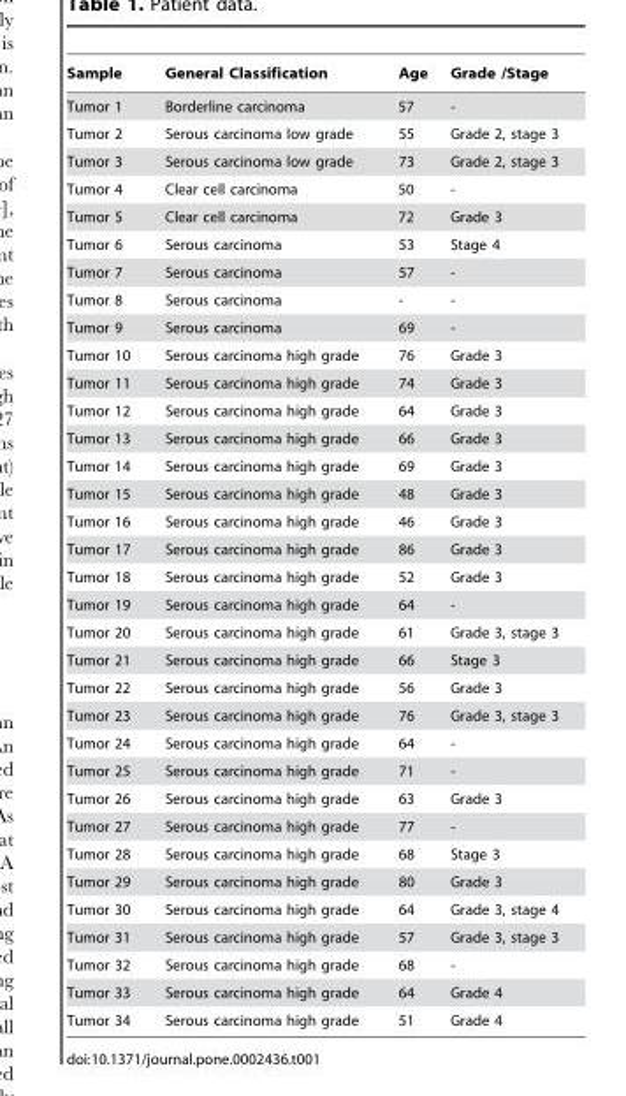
<table><thead><tr><td>Sample</td><td>General Classification</td><td>Age</td><td>Grade /Stage</td></tr></thead><tbody><tr><td>Tumor 1</td><td>Borderline carcinoma</td><td>57</td><td>-</td></tr><tr><td>Tumor 2</td><td>Serous carcinoma low grade</td><td>55</td><td>Grade 2, stage 3</td></tr><tr><td>Tumor 3</td><td>Serous carcinoma low grade</td><td>73</td><td>Grade 2, stage 3</td></tr><tr><td>Tumor 4</td><td>Clear cell carcinoma</td><td>50</td><td>-</td></tr><tr><td>Tumor 5</td><td>Clear cell carcinoma</td><td>72</td><td>Grade 3</td></tr><tr><td>Tumor 6</td><td>Serous carcinoma</td><td>53</td><td>Stage 4</td></tr><tr><td>Tumor 7</td><td>Serous carcinoma</td><td>57</td><td>-</td></tr><tr><td>Tumor 8</td><td>Serous carcinoma</td><td>-</td><td>-</td></tr><tr><td>Tumor 9</td><td>Serous carcinoma</td><td>69</td><td>-</td></tr><tr><td>Tumor 10</td><td>Serous carcinoma high grade</td><td>76</td><td>Grade 3</td></tr><tr><td>Tumor 11</td><td>Serous carcinoma high grade</td><td>74</td><td>Grade 3</td></tr><tr><td>Tumor 12</td><td>Serous carcinoma high grade</td><td>64</td><td>Grade 3</td></tr><tr><td>Tumor 13</td><td>Serous carcinoma high grade</td><td>66</td><td>Grade 3</td></tr><tr><td>Tumor 14</td><td>Serous carcinoma high grade</td><td>69</td><td>Grade 3</td></tr><tr><td>Tumor 15</td><td>Serous carcinoma high grade</td><td>48</td><td>Grade 3</td></tr><tr><td>Tumor 16</td><td>Serous carcinoma high grade</td><td>46</td><td>Grade 3</td></tr><tr><td>Tumor 17</td><td>Serous carcinoma high grade</td><td>86</td><td>Grade 3</td></tr><tr><td>Tumor 18</td><td>Serous carcinoma high grade</td><td>52</td><td>Grade 3</td></tr><tr><td>Tumor 19</td><td>Serous carcinoma high grade</td><td>64</td><td>-</td></tr><tr><td>Tumor 20</td><td>Serous carcinoma high grade</td><td>61</td><td>Grade 3, stage 3</td></tr><tr><td>Tumor 21</td><td>Serous carcinoma high grade</td><td>66</td><td>Stage 3</td></tr><tr><td>Tumor 22</td><td>Serous carcinoma high grade</td><td>56</td><td>Grade 3</td></tr><tr><td>Tumor 23</td><td>Serous carcinoma high grade</td><td>76</td><td>Grade 3, stage 3</td></tr><tr><td>Tumor 24</td><td>Serous carcinoma high grade</td><td>64</td><td>-</td></tr><tr><td>Tumor 25</td><td>Serous carcinoma high grade</td><td>71</td><td>-</td></tr><tr><td>Tumor 26</td><td>Serous carcinoma high grade</td><td>63</td><td>Grade 3</td></tr><tr><td>Tumor 27</td><td>Serous carcinoma high grade</td><td>77</td><td>-</td></tr><tr><td>Tumor 28</td><td>Serous carcinoma high grade</td><td>68</td><td>Stage 3</td></tr><tr><td>Tumor 29</td><td>Serous carcinoma high grade</td><td>80</td><td>Grade 3</td></tr><tr><td>Tumor 30</td><td>Serous carcinoma high grade</td><td>64</td><td>Grade 3, stage 4</td></tr><tr><td>Tumor 31</td><td>Serous carcinoma high grade</td><td>57</td><td>Grade 3, stage 3</td></tr><tr><td>Tumor 32</td><td>Serous carcinoma high grade</td><td>68</td><td>-</td></tr><tr><td>Tumor 33</td><td>Serous carcinoma high grade</td><td>64</td><td>Grade 4</td></tr><tr><td>Tumor 34</td><td>Serous carcinoma high grade</td><td>51</td><td>Grade 4</td></tr></tbody></table>